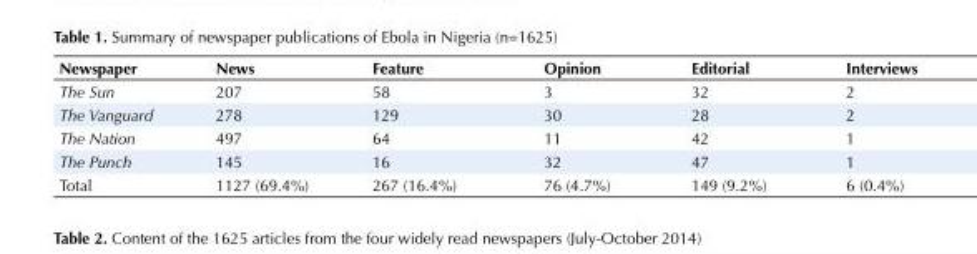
<table><tbody><tr><td>Newspaper</td><td>News</td><td>Feature</td><td>Opinion</td><td>Editorial</td><td>Interviews</td></tr><tr><td>The Sun</td><td>207</td><td>58</td><td>3</td><td>32</td><td>2</td></tr><tr><td>The Vanguard</td><td>278</td><td>129</td><td>30</td><td>28</td><td>2</td></tr><tr><td>The Nation</td><td>497</td><td>64</td><td>11</td><td>42</td><td>1</td></tr><tr><td>The Punch</td><td>145</td><td>16</td><td>32</td><td>47</td><td>1</td></tr><tr><td>Total</td><td>1127 (69.4%)</td><td>267 (16.4%)</td><td>76 (4.7%)</td><td>149 (9.2%)</td><td>6 (0.4%)</td></tr></tbody></table>